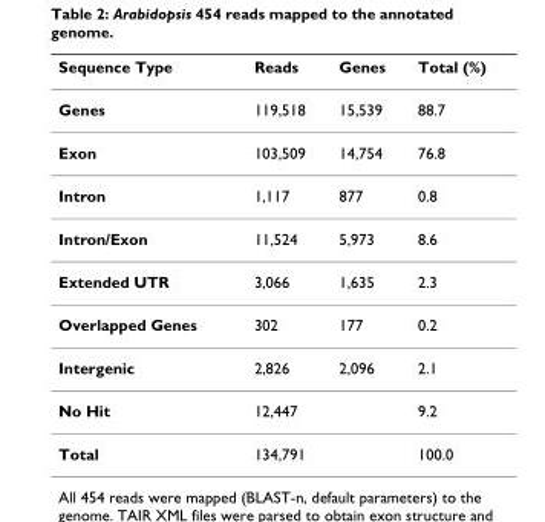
<table><thead><tr><td>Sequence Type</td><td>Reads</td><td>Genes</td><td>Total (%)</td></tr></thead><tbody><tr><td>Genes</td><td>119,518</td><td>15,539</td><td>88.7</td></tr><tr><td>Exon</td><td>103,509</td><td>14,754</td><td>76.8</td></tr><tr><td>Intron</td><td>1,117</td><td>877</td><td>0.8</td></tr><tr><td>Intron/Exon</td><td>11,524</td><td>5,973</td><td>8.6</td></tr><tr><td>Extended UTR</td><td>3,066</td><td>1,635</td><td>2.3</td></tr><tr><td>Overlapped Genes</td><td>302</td><td>177</td><td>0.2</td></tr><tr><td>Intergenic</td><td>2,826</td><td>2,096</td><td>2.1</td></tr><tr><td>No Hit</td><td>12,447</td><td></td><td>9.2</td></tr><tr><td>Total</td><td>134,791</td><td></td><td>100.0</td></tr></tbody></table>